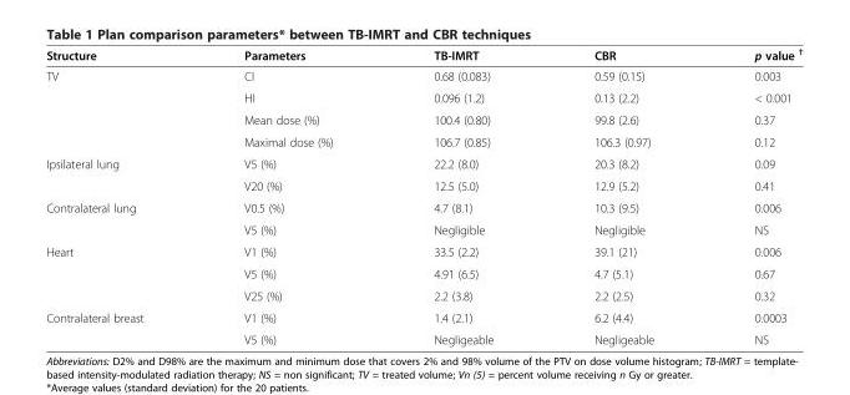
<table><thead><tr><td>Structure</td><td>Parameters</td><td>TB-IMRT</td><td>CBR</td><td>p value <sup>†</sup></td></tr></thead><tbody><tr><td rowspan="4">TV</td><td>CI</td><td>0.68 (0.083)</td><td>0.59 (0.15)</td><td>0.003</td></tr><tr><td>HI</td><td>0.096 (1.2)</td><td>0.13 (2.2)</td><td>&lt; 0.001</td></tr><tr><td>Mean dose (%)</td><td>100.4 (0.80)</td><td>99.8 (2.6)</td><td>0.37</td></tr><tr><td>Maximal dose (%)</td><td>106.7 (0.85)</td><td>106.3 (0.97)</td><td>0.12</td></tr><tr><td rowspan="2">Ipsilateral lung</td><td>V5 (%)</td><td>22.2 (8.0)</td><td>20.3 (8.2)</td><td>0.09</td></tr><tr><td>V20 (%)</td><td>12.5 (5.0)</td><td>12.9 (5.2)</td><td>0.41</td></tr><tr><td rowspan="2">Contralateral lung</td><td>V0.5 (%)</td><td>4.7 (8.1)</td><td>10.3 (9.5)</td><td>0.006</td></tr><tr><td>V5 (%)</td><td>Negligible</td><td>Negligible</td><td>NS</td></tr><tr><td rowspan="3">Heart</td><td>V1 (%)</td><td>33.5 (2.2)</td><td>39.1 (21)</td><td>0.006</td></tr><tr><td>V5 (%)</td><td>4.91 (6.5)</td><td>4.7 (5.1)</td><td>0.67</td></tr><tr><td>V25 (%)</td><td>2.2 (3.8)</td><td>2.2 (2.5)</td><td>0.32</td></tr><tr><td rowspan="2">Contralateral breast</td><td>V1 (%)</td><td>1.4 (2.1)</td><td>6.2 (4.4)</td><td>0.0003</td></tr><tr><td>V5 (%)</td><td>Negligeable</td><td>Negligeable</td><td>NS</td></tr></tbody></table>